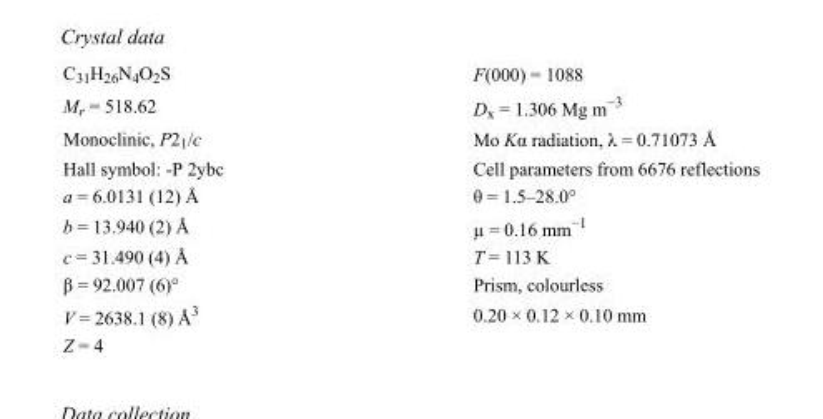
<table><tbody><tr><td>C<sub>31</sub>H<sub>26</sub>N<sub>4</sub>O<sub>2</sub>S</td><td>F(000) = 1088</td></tr><tr><td>M<sub>r</sub> = 518.62</td><td>D<sub>x</sub> = 1.306 Mg m<sup>−3</sup></td></tr><tr><td>Monoclinic, P2<sub>1</sub>/c</td><td>Mo Kα radiation, λ = 0.71073 Å</td></tr><tr><td>Hall symbol: -P 2ybc</td><td>Cell parameters from 6676 reflections</td></tr><tr><td>a = 6.0131 (12) Å</td><td>θ = 1.5–28.0°</td></tr><tr><td>b = 13.940 (2) Å</td><td>µ = 0.16 mm<sup>−1</sup></td></tr><tr><td>c = 31.490 (4) Å</td><td>T = 113 K</td></tr><tr><td>β = 92.007 (6)°</td><td>Prism, colourless</td></tr><tr><td>V = 2638.1 (8) Å<sup>3</sup></td><td>0.20 × 0.12 × 0.10 mm</td></tr><tr><td>Z = 4</td><td></td></tr></tbody></table>